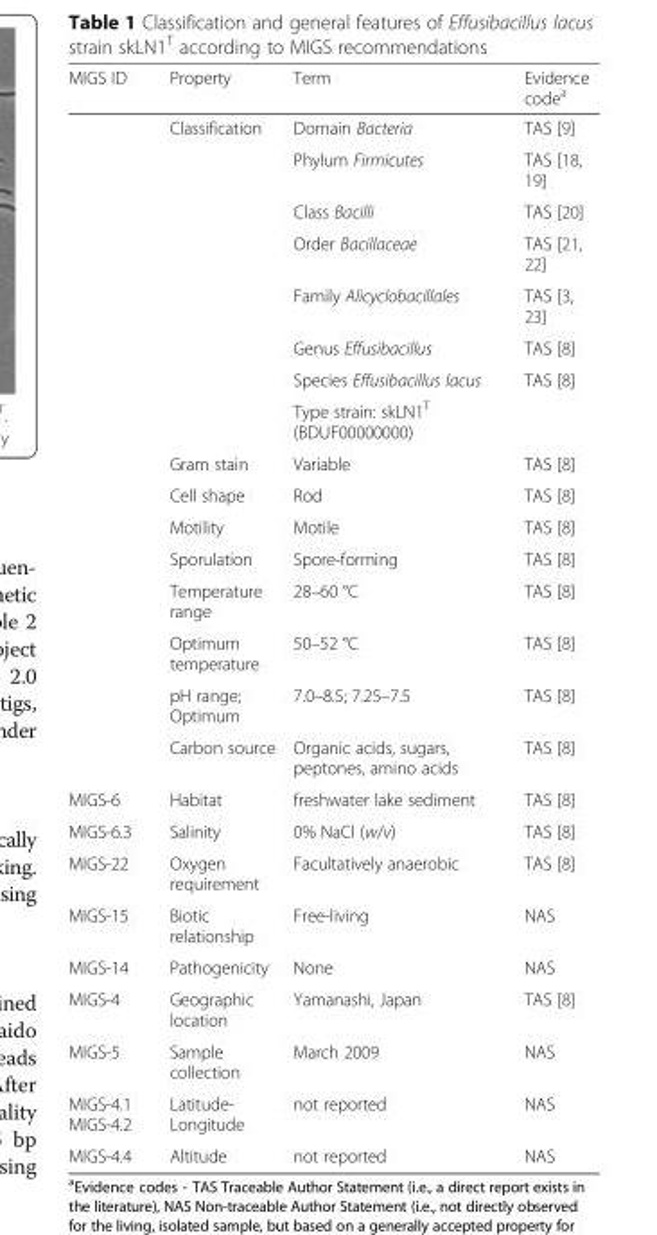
<table><thead><tr><td>MIGS ID</td><td>Property</td><td>Term</td><td>Evidence code<sup>a</sup></td></tr></thead><tbody><tr><td></td><td>Classification</td><td>Domain Bacteria</td><td>TAS [9]</td></tr><tr><td></td><td></td><td>Phylum Firmicutes</td><td>TAS [18, 19]</td></tr><tr><td></td><td></td><td>Class Bacilli</td><td>TAS [20]</td></tr><tr><td></td><td></td><td>Order Bacillaceae</td><td>TAS [21, 22]</td></tr><tr><td></td><td></td><td>Family Alicyclobacillales</td><td>TAS [3, 23]</td></tr><tr><td></td><td></td><td>Genus Effusibacillus</td><td>TAS [8]</td></tr><tr><td></td><td></td><td>Species Effusibacillus lacus</td><td>TAS [8]</td></tr><tr><td></td><td></td><td>Type strain: skLN1<sup>T</sup> (BDUF00000000)</td><td></td></tr><tr><td></td><td>Gram stain</td><td>Variable</td><td>TAS [8]</td></tr><tr><td></td><td>Cell shape</td><td>Rod</td><td>TAS [8]</td></tr><tr><td></td><td>Motility</td><td>Motile</td><td>TAS [8]</td></tr><tr><td></td><td>Sporulation</td><td>Spore-forming</td><td>TAS [8]</td></tr><tr><td></td><td>Temperature range</td><td>28–60 °C</td><td>TAS [8]</td></tr><tr><td></td><td>Optimum temperature</td><td>50–52 °C</td><td>TAS [8]</td></tr><tr><td></td><td>pH range; Optimum</td><td>7.0–8.5; 7.25–7.5</td><td>TAS [8]</td></tr><tr><td></td><td>Carbon source</td><td>Organic acids, sugars, peptones, amino acids</td><td>TAS [8]</td></tr><tr><td>MIGS-6</td><td>Habitat</td><td>freshwater lake sediment</td><td>TAS [8]</td></tr><tr><td>MIGS-6.3</td><td>Salinity</td><td>0% NaCl (w/v)</td><td>TAS [8]</td></tr><tr><td>MIGS-22</td><td>Oxygen requirement</td><td>Facultatively anaerobic</td><td>TAS [8]</td></tr><tr><td>MIGS-15</td><td>Biotic relationship</td><td>Free-living</td><td>NAS</td></tr><tr><td>MIGS-14</td><td>Pathogenicity</td><td>None</td><td>NAS</td></tr><tr><td>MIGS-4</td><td>Geographic location</td><td>Yamanashi, Japan</td><td>TAS [8]</td></tr><tr><td>MIGS-5</td><td>Sample collection</td><td>March 2009</td><td>NAS</td></tr><tr><td>MIGS-4.1 MIGS-4.2</td><td>Latitude- Longitude</td><td>not reported</td><td>NAS</td></tr><tr><td>MIGS-4.4</td><td>Altitude</td><td>not reported</td><td>NAS</td></tr></tbody></table>